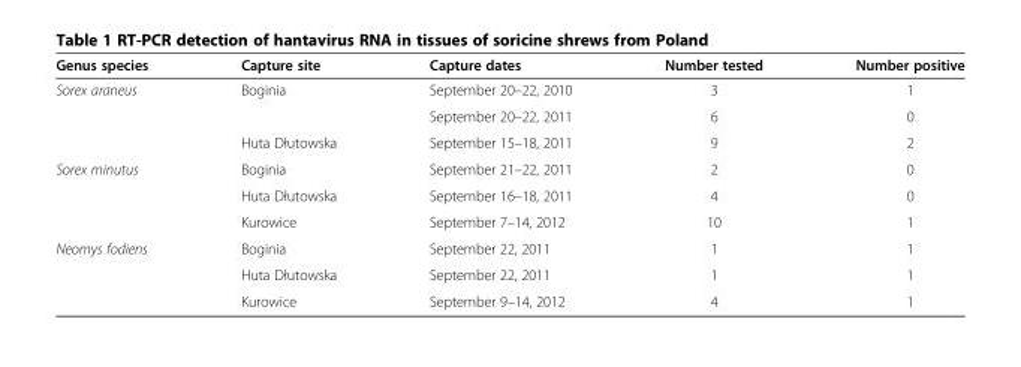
<table><thead><tr><td>Genus species</td><td>Capture site</td><td>Capture dates</td><td>Number tested</td><td>Number positive</td></tr></thead><tbody><tr><td rowspan="3">Sorex araneus</td><td>Boginia</td><td>September 20–22, 2010</td><td>3</td><td>1</td></tr><tr><td></td><td>September 20–22, 2011</td><td>6</td><td>0</td></tr><tr><td>Huta Dłutowska</td><td>September 15–18, 2011</td><td>9</td><td>2</td></tr><tr><td rowspan="3">Sorex minutus</td><td>Boginia</td><td>September 21–22, 2011</td><td>2</td><td>0</td></tr><tr><td>Huta Dłutowska</td><td>September 16–18, 2011</td><td>4</td><td>0</td></tr><tr><td>Kurowice</td><td>September 7–14, 2012</td><td>10</td><td>1</td></tr><tr><td rowspan="3">Neomys fodiens</td><td>Boginia</td><td>September 22, 2011</td><td>1</td><td>1</td></tr><tr><td>Huta Dłutowska</td><td>September 22, 2011</td><td>1</td><td>1</td></tr><tr><td>Kurowice</td><td>September 9–14, 2012</td><td>4</td><td>1</td></tr></tbody></table>